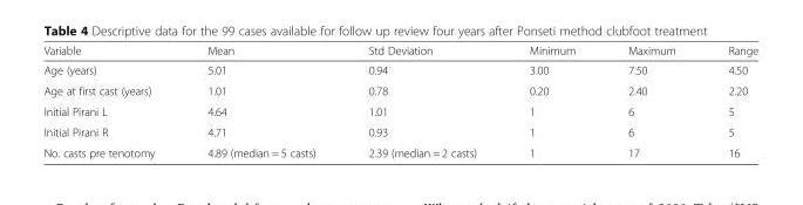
<table><thead><tr><td>Variable</td><td>Mean</td><td>Std Deviation</td><td>Minimum</td><td>Maximum</td><td>Range</td></tr></thead><tbody><tr><td>Age (years)</td><td>5.01</td><td>0.94</td><td>3.00</td><td>7.50</td><td>4.50</td></tr><tr><td>Age at first cast (years)</td><td>1.01</td><td>0.78</td><td>0.20</td><td>2.40</td><td>2.20</td></tr><tr><td>Initial Pirani L</td><td>4.64</td><td>1.01</td><td>1</td><td>6</td><td>5</td></tr><tr><td>Initial Pirani R</td><td>4.71</td><td>0.93</td><td>1</td><td>6</td><td>5</td></tr><tr><td>No. casts pre tenotomy</td><td>4.89 (median = 5 casts)</td><td>2.39 (median = 2 casts)</td><td>1</td><td>17</td><td>16</td></tr></tbody></table>